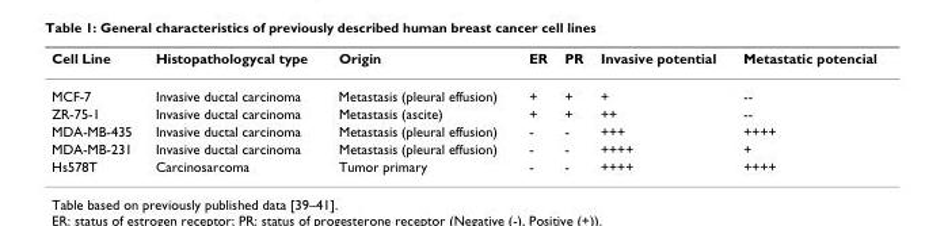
<table><thead><tr><td>Cell Line</td><td>Histopathologycal type</td><td>Origin</td><td>ER</td><td>PR</td><td>Invasive potential</td><td>Metastatic potencial</td></tr></thead><tbody><tr><td>MCF-7</td><td>Invasive ductal carcinoma</td><td>Metastasis (pleural effusion)</td><td>+</td><td>+</td><td>+</td><td>--</td></tr><tr><td>ZR-75-1</td><td>Invasive ductal carcinoma</td><td>Metastasis (ascite)</td><td>+</td><td>+</td><td>++</td><td>--</td></tr><tr><td>MDA-MB-435</td><td>Invasive ductal carcinoma</td><td>Metastasis (pleural effusion)</td><td>-</td><td>-</td><td>+++</td><td>++++</td></tr><tr><td>MDA-MB-231</td><td>Invasive ductal carcinoma</td><td>Metastasis (pleural effusion)</td><td>-</td><td>-</td><td>++++</td><td>+</td></tr><tr><td>Hs578T</td><td>Carcinosarcoma</td><td>Tumor primary</td><td>-</td><td>-</td><td>++++</td><td>++++</td></tr></tbody></table>